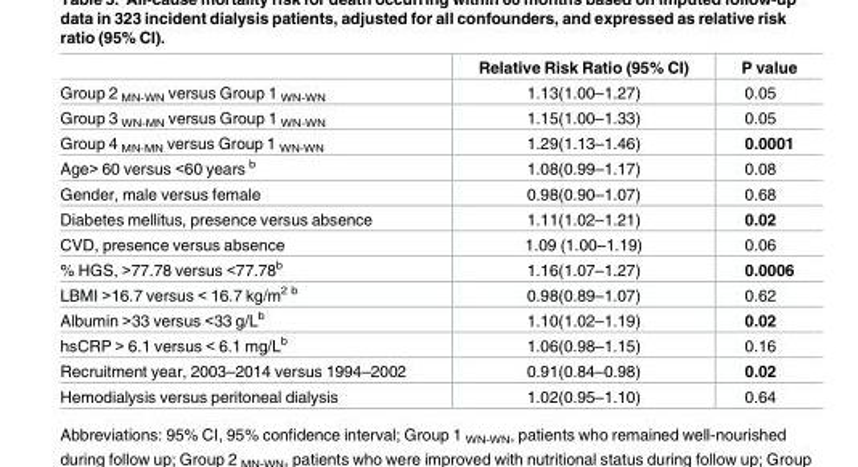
<table><thead><tr><td></td><td>Relative Risk Ratio (95% CI)</td><td>P value</td></tr></thead><tbody><tr><td>Group 2 <sub>MN-WN</sub> versus Group 1 <sub>WN-WN</sub></td><td>1.13(1.00–1.27)</td><td>0.05</td></tr><tr><td>Group 3 <sub>WN-MN</sub> versus Group 1 <sub>WN-WN</sub></td><td>1.15(1.00–1.33)</td><td>0.05</td></tr><tr><td>Group 4 <sub>MN-MN</sub> versus Group 1 <sub>WN-WN</sub></td><td>1.29(1.13–1.46)</td><td>0.0001</td></tr><tr><td>Age&gt; 60 versus &lt;60 years <sup>b</sup></td><td>1.08(0.99–1.17)</td><td>0.08</td></tr><tr><td>Gender, male versus female</td><td>0.98(0.90–1.07)</td><td>0.68</td></tr><tr><td>Diabetes mellitus, presence versus absence</td><td>1.11(1.02–1.21)</td><td>0.02</td></tr><tr><td>CVD, presence versus absence</td><td>1.09 (1.00–1.19)</td><td>0.06</td></tr><tr><td>% HGS, &gt;77.78 versus &lt;77.78<sup>b</sup></td><td>1.16(1.07–1.27)</td><td>0.0006</td></tr><tr><td>LBMI &gt;16.7 versus &lt; 16.7 kg/m<sup>2 b</sup></td><td>0.98(0.89–1.07)</td><td>0.62</td></tr><tr><td>Albumin &gt;33 versus &lt;33 g/L<sup>b</sup></td><td>1.10(1.02–1.19)</td><td>0.02</td></tr><tr><td>hsCRP &gt; 6.1 versus &lt; 6.1 mg/L<sup>b</sup></td><td>1.06(0.98–1.15)</td><td>0.16</td></tr><tr><td>Recruitment year, 2003–2014 versus 1994–2002</td><td>0.91(0.84–0.98)</td><td>0.02</td></tr><tr><td>Hemodialysis versus peritoneal dialysis</td><td>1.02(0.95–1.10)</td><td>0.64</td></tr></tbody></table>